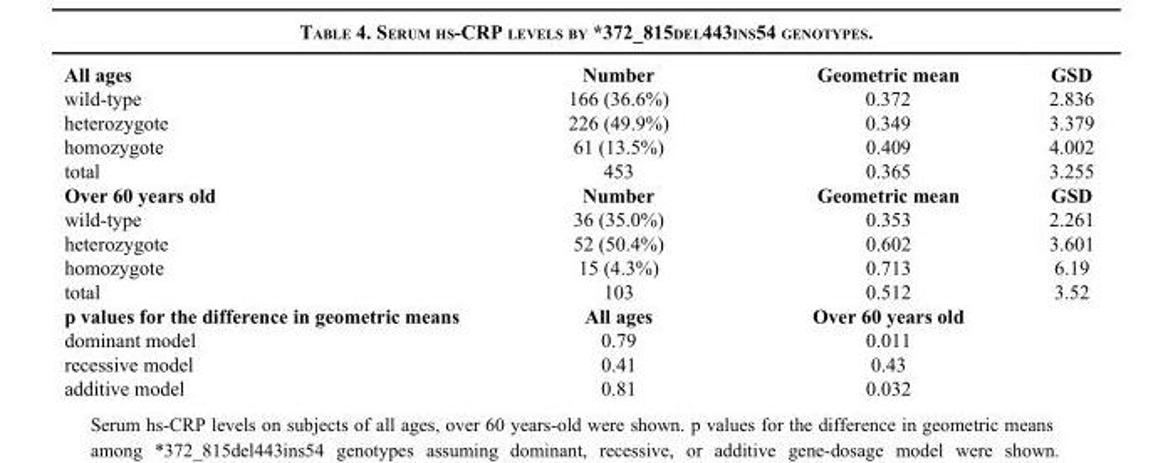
<table><thead><tr><td>All ages</td><td>Number</td><td>Geometric mean</td><td>GSD</td></tr></thead><tbody><tr><td>wild-type</td><td>166 (36.6%)</td><td>0.372</td><td>2.836</td></tr><tr><td>heterozygote</td><td>226 (49.9%)</td><td>0.349</td><td>3.379</td></tr><tr><td>homozygote</td><td>61 (13.5%)</td><td>0.409</td><td>4.002</td></tr><tr><td>total</td><td>453</td><td>0.365</td><td>3.255</td></tr><tr><td>Over 60 years old</td><td>Number</td><td>Geometric mean</td><td>GSD</td></tr><tr><td>wild-type</td><td>36 (35.0%)</td><td>0.353</td><td>2.261</td></tr><tr><td>heterozygote</td><td>52 (50.4%)</td><td>0.602</td><td>3.601</td></tr><tr><td>homozygote</td><td>15 (4.3%)</td><td>0.713</td><td>6.19</td></tr><tr><td>total</td><td>103</td><td>0.512</td><td>3.52</td></tr><tr><td>p values for the difference in geometric means</td><td>All ages</td><td>Over 60 years old</td><td></td></tr><tr><td>dominant model</td><td>0.79</td><td>0.011</td><td></td></tr><tr><td>recessive model</td><td>0.41</td><td>0.43</td><td></td></tr><tr><td>additive model</td><td>0.81</td><td>0.032</td><td></td></tr></tbody></table>